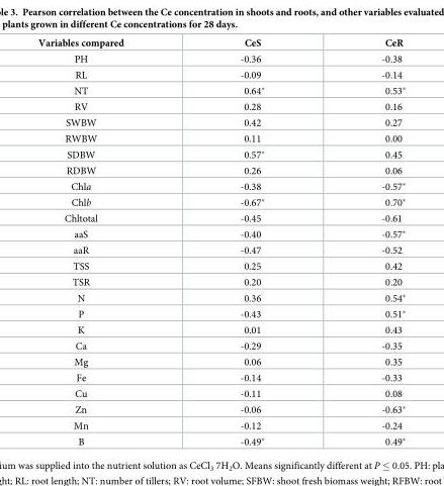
<table><thead><tr><td>Variables compared</td><td>CeS</td><td>CeR</td></tr></thead><tbody><tr><td>PH</td><td>-0.36</td><td>-0.38</td></tr><tr><td>RL</td><td>-0.09</td><td>-0.14</td></tr><tr><td>NT</td><td>0.64*</td><td>0.53*</td></tr><tr><td>RV</td><td>0.28</td><td>0.16</td></tr><tr><td>SWBW</td><td>0.42</td><td>0.27</td></tr><tr><td>RWBW</td><td>0.11</td><td>0.00</td></tr><tr><td>SDBW</td><td>0.57*</td><td>0.45</td></tr><tr><td>RDBW</td><td>0.26</td><td>0.06</td></tr><tr><td>Chla</td><td>-0.38</td><td>-0.57*</td></tr><tr><td>Chlb</td><td>-0.67*</td><td>0.70*</td></tr><tr><td>Chltotal</td><td>-0.45</td><td>-0.61</td></tr><tr><td>aaS</td><td>-0.40</td><td>-0.57*</td></tr><tr><td>aaR</td><td>-0.47</td><td>-0.52</td></tr><tr><td>TSS</td><td>0.25</td><td>0.42</td></tr><tr><td>TSR</td><td>0.20</td><td>0.20</td></tr><tr><td>N</td><td>0.36</td><td>0.54*</td></tr><tr><td>P</td><td>-0.43</td><td>0.51*</td></tr><tr><td>K</td><td>0.01</td><td>0.43</td></tr><tr><td>Ca</td><td>-0.29</td><td>-0.35</td></tr><tr><td>Mg</td><td>0.06</td><td>0.35</td></tr><tr><td>Fe</td><td>-0.14</td><td>-0.33</td></tr><tr><td>Cu</td><td>-0.11</td><td>0.08</td></tr><tr><td>Zn</td><td>-0.06</td><td>-0.63*</td></tr><tr><td>Mn</td><td>-0.12</td><td>-0.24</td></tr><tr><td>B</td><td>-0.49*</td><td>0.49*</td></tr></tbody></table>